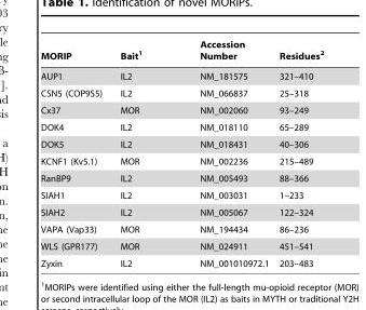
<table><thead><tr><td>MORIP</td><td>Bait<sup>1</sup></td><td>Accession Number</td><td>Residues<sup>2</sup></td></tr></thead><tbody><tr><td>AUP1</td><td>IL2</td><td>NM_181575</td><td>321–410</td></tr><tr><td>CSN5 (COP9S5)</td><td>IL2</td><td>NM_066837</td><td>25–318</td></tr><tr><td>Cx37</td><td>MOR</td><td>NM_002060</td><td>93–249</td></tr><tr><td>DOK4</td><td>IL2</td><td>NM_018110</td><td>65–289</td></tr><tr><td>DOK5</td><td>IL2</td><td>NM_018431</td><td>40–306</td></tr><tr><td>KCNF1 (Kv5.1)</td><td>MOR</td><td>NM_002236</td><td>215–489</td></tr><tr><td>RanBP9</td><td>IL2</td><td>NM_005493</td><td>88–366</td></tr><tr><td>SIAH1</td><td>IL2</td><td>NM_003031</td><td>1–233</td></tr><tr><td>SIAH2</td><td>IL2</td><td>NM_005067</td><td>122–324</td></tr><tr><td>VAPA (Vap33)</td><td>MOR</td><td>NM_194434</td><td>86–236</td></tr><tr><td>WLS (GPR177)</td><td>MOR</td><td>NM_024911</td><td>451–541</td></tr><tr><td>Zyxin</td><td>IL2</td><td>NM_001010972.1</td><td>203–483</td></tr></tbody></table>